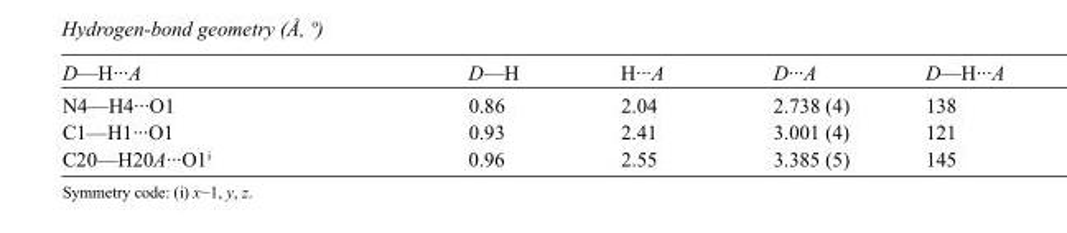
<table><tbody><tr><td>D—H···A</td><td>D—H</td><td>H···A</td><td>D···A</td><td>D—H···A</td></tr><tr><td>N4—H4···O1</td><td>0.86</td><td>2.04</td><td>2.738 (4)</td><td>138</td></tr><tr><td>C1—H1···O1</td><td>0.93</td><td>2.41</td><td>3.001 (4)</td><td>121</td></tr><tr><td>C20—H20A···O1<sup>i</sup></td><td>0.96</td><td>2.55</td><td>3.385 (5)</td><td>145</td></tr></tbody></table>